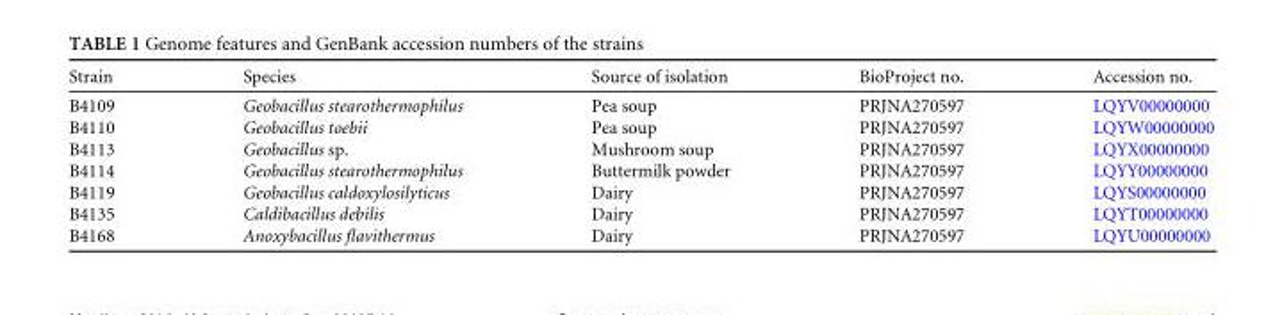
<table><thead><tr><td>Strain</td><td>Species</td><td>Source of isolation</td><td>BioProject no.</td><td>Accession no.</td></tr></thead><tbody><tr><td>B4109</td><td>Geobacillus stearothermophilus</td><td>Pea soup</td><td>PRJNA270597</td><td>LQYV00000000</td></tr><tr><td>B4110</td><td>Geobacillus toebii</td><td>Pea soup</td><td>PRJNA270597</td><td>LQYW00000000</td></tr><tr><td>B4113</td><td>Geobacillus sp.</td><td>Mushroom soup</td><td>PRJNA270597</td><td>LQYX00000000</td></tr><tr><td>B4114</td><td>Geobacillus stearothermophilus</td><td>Buttermilk powder</td><td>PRJNA270597</td><td>LQYY00000000</td></tr><tr><td>B4119</td><td>Geobacillus caldoxylosilyticus</td><td>Dairy</td><td>PRJNA270597</td><td>LQYS00000000</td></tr><tr><td>B4135</td><td>Caldibacillus debilis</td><td>Dairy</td><td>PRJNA270597</td><td>LQYT00000000</td></tr><tr><td>B4168</td><td>Anoxybacillus flavithermus</td><td>Dairy</td><td>PRJNA270597</td><td>LQYU00000000</td></tr></tbody></table>